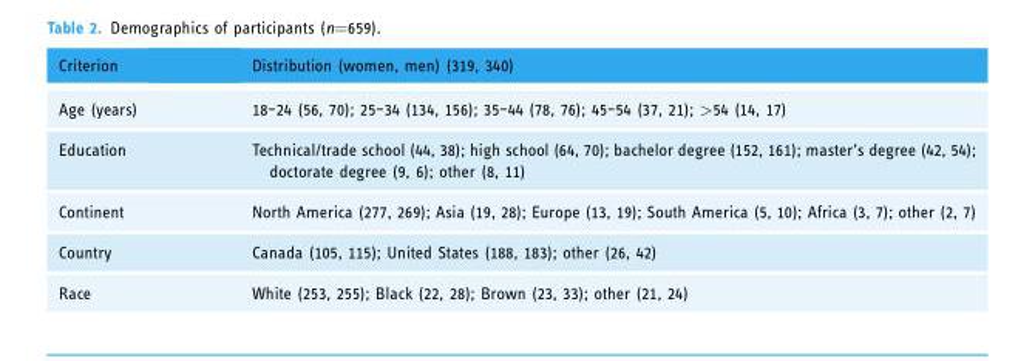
<table><thead><tr><td>Criterion</td><td>Distribution (women, men) (319, 340)</td></tr></thead><tbody><tr><td>Age (years)</td><td>18–24 (56, 70); 25–34 (134, 156); 35–44 (78, 76); 45–54 (37, 21); &gt;54 (14, 17)</td></tr><tr><td>Education</td><td>Technical/trade school (44, 38); high school (64, 70); bachelor degree (152, 161); master’s degree (42, 54); doctorate degree (9, 6); other (8, 11)</td></tr><tr><td>Continent</td><td>North America (277, 269); Asia (19, 28); Europe (13, 19); South America (5, 10); Africa (3, 7); other (2, 7)</td></tr><tr><td>Country</td><td>Canada (105, 115); United States (188, 183); other (26, 42)</td></tr><tr><td>Race</td><td>White (253, 255); Black (22, 28); Brown (23, 33); other (21, 24)</td></tr></tbody></table>